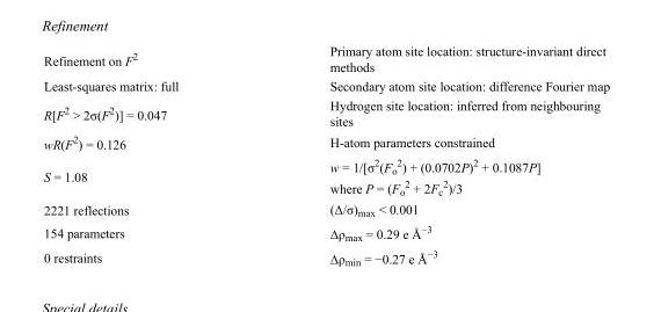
<table><tbody><tr><td>Refinement on F<sup>2</sup></td><td>Primary atom site location: structure-invariant direct methods</td></tr><tr><td>Least-squares matrix: full</td><td>Secondary atom site location: difference Fourier map</td></tr><tr><td>R[F<sup>2</sup> &gt; 2σ(F<sup>2</sup>)] = 0.047</td><td>Hydrogen site location: inferred from neighbouring sites</td></tr><tr><td>wR(F<sup>2</sup>) = 0.126</td><td>H-atom parameters constrained</td></tr><tr><td>S = 1.08</td><td>w = 1/[σ<sup>2</sup>(F<sub>o</sub> <sup>2</sup>) + (0.0702P)<sup>2</sup> + 0.1087P] where P = (F<sub>o</sub> <sup>2</sup> + 2F<sub>c</sub> <sup>2</sup>)/3</td></tr><tr><td>2221 reflections</td><td>(Δ/σ)<sub>max</sub> &lt; 0.001</td></tr><tr><td>154 parameters</td><td>Δρ<sub>max</sub> = 0.29 e Å<sup>−3</sup></td></tr><tr><td>0 restraints</td><td>Δρ<sub>min</sub> = −0.27 e Å<sup>−3</sup></td></tr></tbody></table>